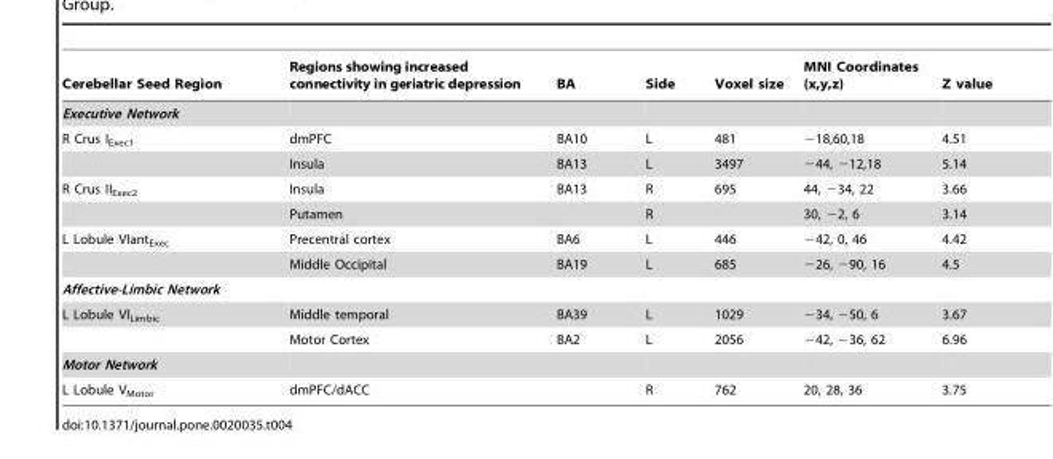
<table><thead><tr><td>Cerebellar Seed Region</td><td>Regions showing increased connectivity in geriatric depression</td><td>BA</td><td>Side</td><td>Voxel size</td><td>MNI Coordinates (x,y,z)</td><td>Z value</td></tr></thead><tbody><tr><td colspan="7">Executive Network</td></tr><tr><td rowspan="2">R Crus I<sub>Exec1</sub></td><td>dmPFC</td><td>BA10</td><td>L</td><td>481</td><td>−18,60,18</td><td>4.51</td></tr><tr><td>Insula</td><td>BA13</td><td>L</td><td>3497</td><td>−44, −12,18</td><td>5.14</td></tr><tr><td rowspan="2">R Crus II<sub>Exec2</sub></td><td>Insula</td><td>BA13</td><td>R</td><td>695</td><td>44, −34, 22</td><td>3.66</td></tr><tr><td>Putamen</td><td></td><td>R</td><td></td><td>30, −2, 6</td><td>3.14</td></tr><tr><td rowspan="2">L Lobule VIant<sub>Exec</sub></td><td>Precentral cortex</td><td>BA6</td><td>L</td><td>446</td><td>−42, 0, 46</td><td>4.42</td></tr><tr><td>Middle Occipital</td><td>BA19</td><td>L</td><td>685</td><td>−26, −90, 16</td><td>4.5</td></tr><tr><td colspan="7">Affective-Limbic Network</td></tr><tr><td rowspan="2">L Lobule VI<sub>Limbic</sub></td><td>Middle temporal</td><td>BA39</td><td>L</td><td>1029</td><td>−34, −50, 6</td><td>3.67</td></tr><tr><td>Motor Cortex</td><td>BA2</td><td>L</td><td>2056</td><td>−42, −36, 62</td><td>6.96</td></tr><tr><td colspan="7">Motor Network</td></tr><tr><td>L Lobule V<sub>Motor</sub></td><td>dmPFC/dACC</td><td></td><td>R</td><td>762</td><td>20, 28, 36</td><td>3.75</td></tr></tbody></table>